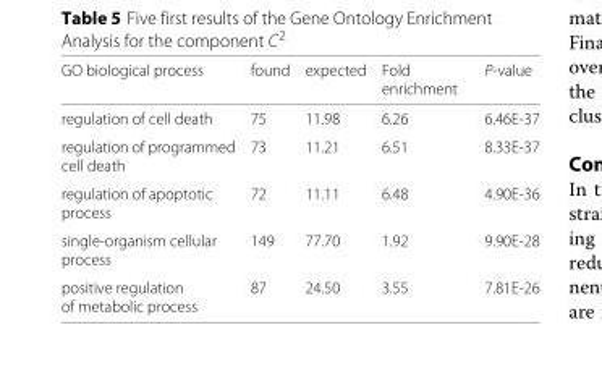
<table><thead><tr><td>GO biological process</td><td>found</td><td>expected</td><td>Fold enrichment</td><td>P-value</td></tr></thead><tbody><tr><td>regulation of cell death</td><td>75</td><td>11.98</td><td>6.26</td><td>6.46E-37</td></tr><tr><td>regulation of programmed cell death</td><td>73</td><td>11.21</td><td>6.51</td><td>8.33E-37</td></tr><tr><td>regulation of apoptotic process</td><td>72</td><td>11.11</td><td>6.48</td><td>4.90E-36</td></tr><tr><td>single-organism cellular process</td><td>149</td><td>77.70</td><td>1.92</td><td>9.90E-28</td></tr><tr><td>positive regulation of metabolic process</td><td>87</td><td>24.50</td><td>3.55</td><td>7.81E-26</td></tr></tbody></table>